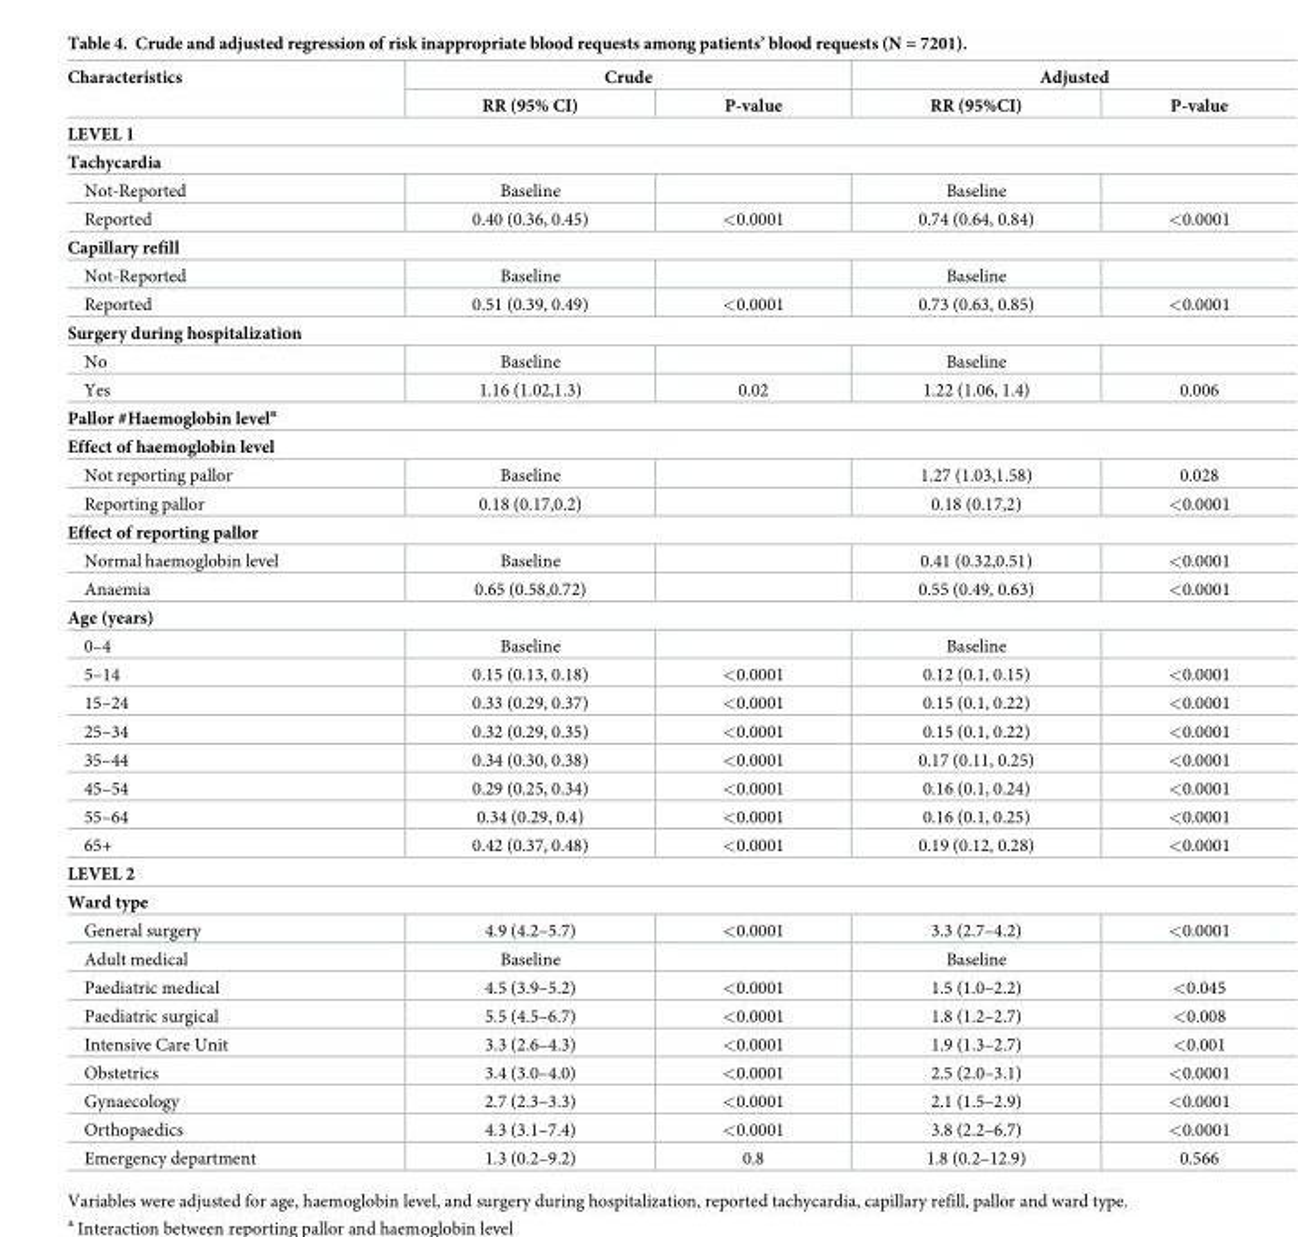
<table><thead><tr><td rowspan="2">Characteristics</td><td colspan="2">Crude</td><td colspan="2">Adjusted</td></tr><tr><td>RR (95% CI)</td><td>P-value</td><td>RR (95%CI)</td><td>P-value</td></tr></thead><tbody><tr><td colspan="5">LEVEL 1</td></tr><tr><td colspan="5">Tachycardia</td></tr><tr><td>Not-Reported</td><td>Baseline</td><td></td><td>Baseline</td><td></td></tr><tr><td>Reported</td><td>0.40 (0.36, 0.45)</td><td>&lt;0.0001</td><td>0.74 (0.64, 0.84)</td><td>&lt;0.0001</td></tr><tr><td colspan="5">Capillary refill</td></tr><tr><td>Not-Reported</td><td>Baseline</td><td></td><td>Baseline</td><td></td></tr><tr><td>Reported</td><td>0.51 (0.39, 0.49)</td><td>&lt;0.0001</td><td>0.73 (0.63, 0.85)</td><td>&lt;0.0001</td></tr><tr><td colspan="5">Surgery during hospitalization</td></tr><tr><td>No</td><td>Baseline</td><td></td><td>Baseline</td><td></td></tr><tr><td>Yes</td><td>1.16 (1.02,1.3)</td><td>0.02</td><td>1.22 (1.06, 1.4)</td><td>0.006</td></tr><tr><td colspan="5">Pallor #Haemoglobin level<sup>a</sup></td></tr><tr><td colspan="5">Effect of haemoglobin level</td></tr><tr><td>Not reporting pallor</td><td>Baseline</td><td></td><td>1.27 (1.03,1.58)</td><td>0.028</td></tr><tr><td>Reporting pallor</td><td>0.18 (0.17,0.2)</td><td></td><td>0.18 (0.17,2)</td><td>&lt;0.0001</td></tr><tr><td colspan="5">Effect of reporting pallor</td></tr><tr><td>Normal haemoglobin level</td><td>Baseline</td><td></td><td>0.41 (0.32,0.51)</td><td>&lt;0.0001</td></tr><tr><td>Anaemia</td><td>0.65 (0.58,0.72)</td><td></td><td>0.55 (0.49, 0.63)</td><td>&lt;0.0001</td></tr><tr><td colspan="5">Age (years)</td></tr><tr><td>0–4</td><td>Baseline</td><td></td><td>Baseline</td><td></td></tr><tr><td>5–14</td><td>0.15 (0.13, 0.18)</td><td>&lt;0.0001</td><td>0.12 (0.1, 0.15)</td><td>&lt;0.0001</td></tr><tr><td>15–24</td><td>0.33 (0.29, 0.37)</td><td>&lt;0.0001</td><td>0.15 (0.1, 0.22)</td><td>&lt;0.0001</td></tr><tr><td>25–34</td><td>0.32 (0.29, 0.35)</td><td>&lt;0.0001</td><td>0.15 (0.1, 0.22)</td><td>&lt;0.0001</td></tr><tr><td>35–44</td><td>0.34 (0.30, 0.38)</td><td>&lt;0.0001</td><td>0.17 (0.11, 0.25)</td><td>&lt;0.0001</td></tr><tr><td>45–54</td><td>0.29 (0.25, 0.34)</td><td>&lt;0.0001</td><td>0.16 (0.1, 0.24)</td><td>&lt;0.0001</td></tr><tr><td>55–64</td><td>0.34 (0.29, 0.4)</td><td>&lt;0.0001</td><td>0.16 (0.1, 0.25)</td><td>&lt;0.0001</td></tr><tr><td>65+</td><td>0.42 (0.37, 0.48)</td><td>&lt;0.0001</td><td>0.19 (0.12, 0.28)</td><td>&lt;0.0001</td></tr><tr><td colspan="5">LEVEL 2</td></tr><tr><td colspan="5">Ward type</td></tr><tr><td>General surgery</td><td>4.9 (4.2–5.7)</td><td>&lt;0.0001</td><td>3.3 (2.7–4.2)</td><td>&lt;0.0001</td></tr><tr><td>Adult medical</td><td>Baseline</td><td></td><td>Baseline</td><td></td></tr><tr><td>Paediatric medical</td><td>4.5 (3.9–5.2)</td><td>&lt;0.0001</td><td>1.5 (1.0–2.2)</td><td>&lt;0.045</td></tr><tr><td>Paediatric surgical</td><td>5.5 (4.5–6.7)</td><td>&lt;0.0001</td><td>1.8 (1.2–2.7)</td><td>&lt;0.008</td></tr><tr><td>Intensive Care Unit</td><td>3.3 (2.6–4.3)</td><td>&lt;0.0001</td><td>1.9 (1.3–2.7)</td><td>&lt;0.001</td></tr><tr><td>Obstetrics</td><td>3.4 (3.0–4.0)</td><td>&lt;0.0001</td><td>2.5 (2.0–3.1)</td><td>&lt;0.0001</td></tr><tr><td>Gynaecology</td><td>2.7 (2.3–3.3)</td><td>&lt;0.0001</td><td>2.1 (1.5–2.9)</td><td>&lt;0.0001</td></tr><tr><td>Orthopaedics</td><td>4.3 (3.1–7.4)</td><td>&lt;0.0001</td><td>3.8 (2.2–6.7)</td><td>&lt;0.0001</td></tr><tr><td>Emergency department</td><td>1.3 (0.2–9.2)</td><td>0.8</td><td>1.8 (0.2–12.9)</td><td>0.566</td></tr></tbody></table>